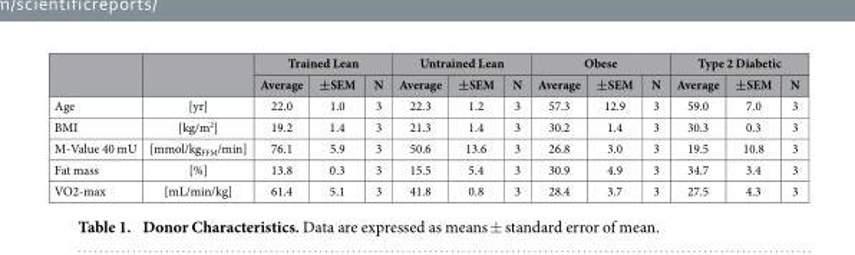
<table><thead><tr><td rowspan="2"></td><td rowspan="2"></td><td colspan="3">Trained Lean</td><td colspan="3">Untrained Lean</td><td colspan="3">Obese</td><td colspan="3">Type 2 Diabetic</td></tr><tr><td>Average</td><td>±SEM</td><td>N</td><td>Average</td><td>±SEM</td><td>N</td><td>Average</td><td>±SEM</td><td>N</td><td>Average</td><td>±SEM</td><td>N</td></tr></thead><tbody><tr><td>Age</td><td>[yr]</td><td>22.0</td><td>1.0</td><td>3</td><td>22.3</td><td>1.2</td><td>3</td><td>57.3</td><td>12.9</td><td>3</td><td>59.0</td><td>7.0</td><td>3</td></tr><tr><td>BMI</td><td>[kg/m<sup>2</sup>]</td><td>19.2</td><td>1.4</td><td>3</td><td>21.3</td><td>1.4</td><td>3</td><td>30.2</td><td>1.4</td><td>3</td><td>30.3</td><td>0.3</td><td>3</td></tr><tr><td>M-Value 40 mU</td><td>[mmol/kg<sub>FFM</sub>/min]</td><td>76.1</td><td>5.9</td><td>3</td><td>50.6</td><td>13.6</td><td>3</td><td>26.8</td><td>3.0</td><td>3</td><td>19.5</td><td>10.8</td><td>3</td></tr><tr><td>Fat mass</td><td>[%]</td><td>13.8</td><td>0.3</td><td>3</td><td>15.5</td><td>5.4</td><td>3</td><td>30.9</td><td>4.9</td><td>3</td><td>34.7</td><td>3.4</td><td>3</td></tr><tr><td>VO2-max</td><td>[mL/min/kg]</td><td>61.4</td><td>5.1</td><td>3</td><td>41.8</td><td>0.8</td><td>3</td><td>28.4</td><td>3.7</td><td>3</td><td>27.5</td><td>4.3</td><td>3</td></tr></tbody></table>